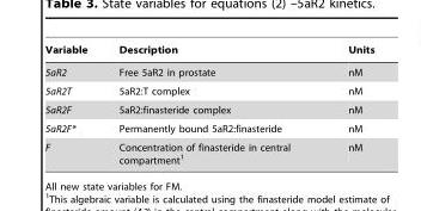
<table><thead><tr><td>Variable</td><td>Description</td><td>Units</td></tr></thead><tbody><tr><td>5aR2</td><td>Free 5aR2 in prostate</td><td>nM</td></tr><tr><td>5aR2T</td><td>5aR2:T complex</td><td>nM</td></tr><tr><td>5aR2F</td><td>5aR2:finasteride complex</td><td>nM</td></tr><tr><td>5aR2F*</td><td>Permanently bound 5aR2:finasteride</td><td>nM</td></tr><tr><td>F</td><td>Concentration of finasteride in central compartment<sup>1</sup></td><td>nM</td></tr></tbody></table>